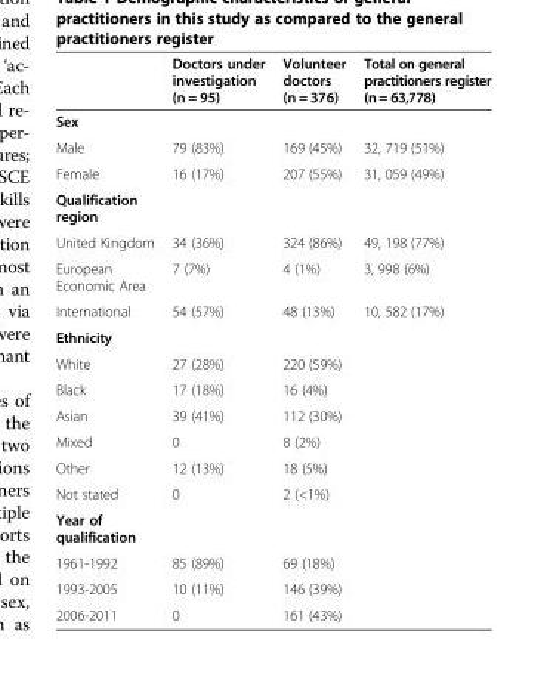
<table><thead><tr><td></td><td>Doctors under investigation (n = 95)</td><td>Volunteer doctors (n = 376)</td><td>Total on general practitioners register (n = 63,778)</td></tr></thead><tbody><tr><td colspan="4">Sex</td></tr><tr><td>Male</td><td>79 (83%)</td><td>169 (45%)</td><td>32, 719 (51%)</td></tr><tr><td>Female</td><td>16 (17%)</td><td>207 (55%)</td><td>31, 059 (49%)</td></tr><tr><td colspan="4">Qualification region</td></tr><tr><td>United Kingdom</td><td>34 (36%)</td><td>324 (86%)</td><td>49, 198 (77%)</td></tr><tr><td>European Economic Area</td><td>7 (7%)</td><td>4 (1%)</td><td>3, 998 (6%)</td></tr><tr><td>International</td><td>54 (57%)</td><td>48 (13%)</td><td>10, 582 (17%)</td></tr><tr><td colspan="4">Ethnicity</td></tr><tr><td>White</td><td>27 (28%)</td><td>220 (59%)</td><td></td></tr><tr><td>Black</td><td>17 (18%)</td><td>16 (4%)</td><td></td></tr><tr><td>Asian</td><td>39 (41%)</td><td>112 (30%)</td><td></td></tr><tr><td>Mixed</td><td>0</td><td>8 (2%)</td><td></td></tr><tr><td>Other</td><td>12 (13%)</td><td>18 (5%)</td><td></td></tr><tr><td>Not stated</td><td>0</td><td>2 (&lt;1%)</td><td></td></tr><tr><td colspan="4">Year of qualification</td></tr><tr><td>1961-1992</td><td>85 (89%)</td><td>69 (18%)</td><td></td></tr><tr><td>1993-2005</td><td>10 (11%)</td><td>146 (39%)</td><td></td></tr><tr><td>2006-2011</td><td>0</td><td>161 (43%)</td><td></td></tr></tbody></table>